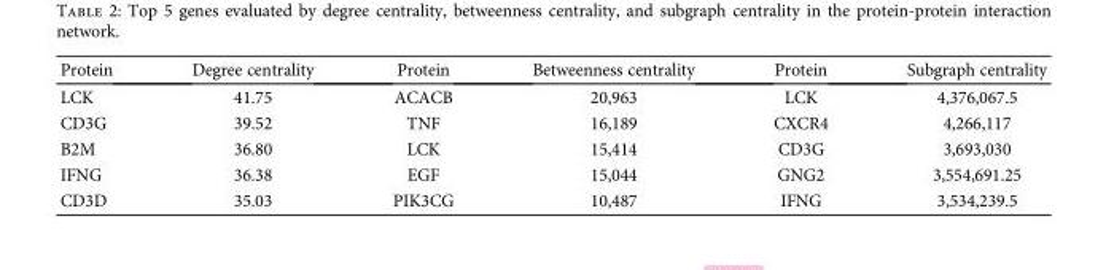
<table><thead><tr><td>Protein</td><td>Degree centrality</td><td>Protein</td><td>Betweenness centrality</td><td>Protein</td><td>Subgraph centrality</td></tr></thead><tbody><tr><td>LCK</td><td>41.75</td><td>ACACB</td><td>20,963</td><td>LCK</td><td>4,376,067.5</td></tr><tr><td>CD3G</td><td>39.52</td><td>TNF</td><td>16,189</td><td>CXCR4</td><td>4,266,117</td></tr><tr><td>B2M</td><td>36.80</td><td>LCK</td><td>15,414</td><td>CD3G</td><td>3,693,030</td></tr><tr><td>IFNG</td><td>36.38</td><td>EGF</td><td>15,044</td><td>GNG2</td><td>3,554,691.25</td></tr><tr><td>CD3D</td><td>35.03</td><td>PIK3CG</td><td>10,487</td><td>IFNG</td><td>3,534,239.5</td></tr></tbody></table>